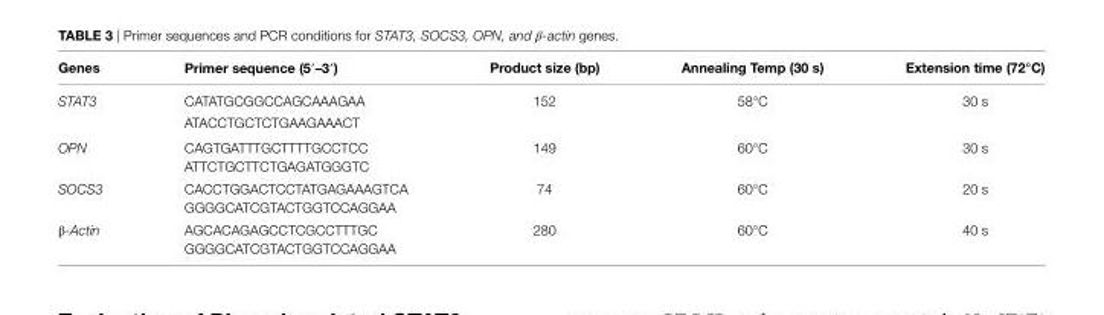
<table><thead><tr><td>genes</td><td>Primer sequence (5′–3′)</td><td>Product size (bp)</td><td>annealing Temp (30 s)</td><td>extension time (72°c)</td></tr></thead><tbody><tr><td rowspan="2">STAT3</td><td>CATATGCGGCCAGCAAAGAA</td><td rowspan="2">152</td><td rowspan="2">58°C</td><td rowspan="2">30 s</td></tr><tr><td>ATACCTGCTCTGAAGAAACT</td></tr><tr><td rowspan="2">OPN</td><td>CAGTGATTTGCTTTTGCCTCC</td><td rowspan="2">149</td><td rowspan="2">60°C</td><td rowspan="2">30 s</td></tr><tr><td>ATTCTGCTTCTGAGATGGGTC</td></tr><tr><td rowspan="2">SOCS3</td><td>CACCTGGACTCCTATGAGAAAGTCA</td><td rowspan="2">74</td><td rowspan="2">60°C</td><td rowspan="2">20 s</td></tr><tr><td>GGGGCATCGTACTGGTCCAGGAA</td></tr><tr><td rowspan="2">β-Actin</td><td>AGCACAGAGCCTCGCCTTTGC</td><td rowspan="2">280</td><td rowspan="2">60°C</td><td rowspan="2">40 s</td></tr><tr><td>GGGGCATCGTACTGGTCCAGGAA</td></tr></tbody></table>